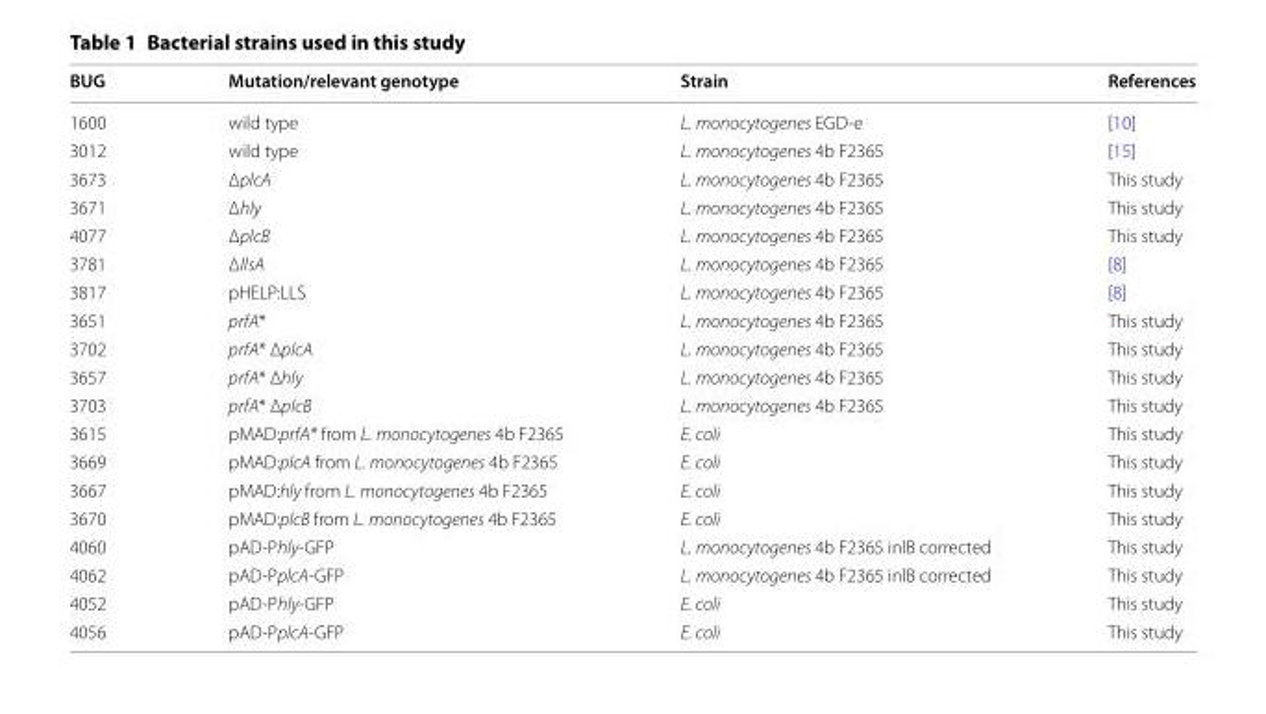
<table><thead><tr><td>BUG</td><td>Mutation/relevant genotype</td><td>Strain</td><td>References</td></tr></thead><tbody><tr><td>1600</td><td>wild type</td><td>L. monocytogenes EGD‑e</td><td>[10]</td></tr><tr><td>3012</td><td>wild type</td><td>L. monocytogenes 4b F2365</td><td>[15]</td></tr><tr><td>3673</td><td>ΔplcA</td><td>L. monocytogenes 4b F2365</td><td>This study</td></tr><tr><td>3671</td><td>Δhly</td><td>L. monocytogenes 4b F2365</td><td>This study</td></tr><tr><td>4077</td><td>ΔplcB</td><td>L. monocytogenes 4b F2365</td><td>This study</td></tr><tr><td>3781</td><td>ΔllsA</td><td>L. monocytogenes 4b F2365</td><td>[8]</td></tr><tr><td>3817</td><td>pHELP:LLS</td><td>L. monocytogenes 4b F2365</td><td>[8]</td></tr><tr><td>3651</td><td>prfA*</td><td>L. monocytogenes 4b F2365</td><td>This study</td></tr><tr><td>3702</td><td>prfA* ΔplcA</td><td>L. monocytogenes 4b F2365</td><td>This study</td></tr><tr><td>3657</td><td>prfA* Δhly</td><td>L. monocytogenes 4b F2365</td><td>This study</td></tr><tr><td>3703</td><td>prfA* ΔplcB</td><td>L. monocytogenes 4b F2365</td><td>This study</td></tr><tr><td>3615</td><td>pMAD:prfA* from L. monocytogenes 4b F2365</td><td>E. coli</td><td>This study</td></tr><tr><td>3669</td><td>pMAD:plcA from L. monocytogenes 4b F2365</td><td>E. coli</td><td>This study</td></tr><tr><td>3667</td><td>pMAD:hly from L. monocytogenes 4b F2365</td><td>E. coli</td><td>This study</td></tr><tr><td>3670</td><td>pMAD:plcB from L. monocytogenes 4b F2365</td><td>E. coli</td><td>This study</td></tr><tr><td>4060</td><td>pAD‑Phly‑GFP</td><td>L. monocytogenes 4b F2365 inlB corrected</td><td>This study</td></tr><tr><td>4062</td><td>pAD‑PplcA‑GFP</td><td>L. monocytogenes 4b F2365 inlB corrected</td><td>This study</td></tr><tr><td>4052</td><td>pAD‑Phly‑GFP</td><td>E. coli</td><td>This study</td></tr><tr><td>4056</td><td>pAD‑PplcA‑GFP</td><td>E. coli</td><td>This study</td></tr></tbody></table>